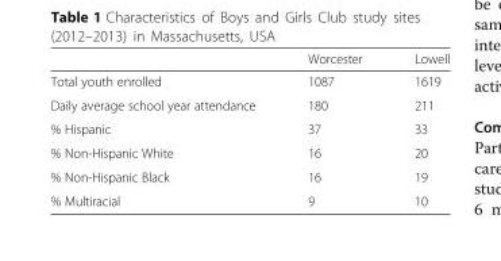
<table><thead><tr><td></td><td>Worcester</td><td>Lowell</td></tr></thead><tbody><tr><td>Total youth enrolled</td><td>1087</td><td>1619</td></tr><tr><td>Daily average school year attendance</td><td>180</td><td>211</td></tr><tr><td>% Hispanic</td><td>37</td><td>33</td></tr><tr><td>% Non-Hispanic White</td><td>16</td><td>20</td></tr><tr><td>% Non-Hispanic Black</td><td>16</td><td>19</td></tr><tr><td>% Multiracial</td><td>9</td><td>10</td></tr></tbody></table>